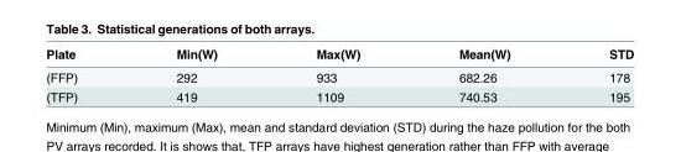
<table><thead><tr><td>Plate</td><td>Min(W)</td><td>Max(W)</td><td>Mean(W)</td><td>STD</td></tr></thead><tbody><tr><td>(FFP)</td><td>292</td><td>933</td><td>682.26</td><td>178</td></tr><tr><td>(TFP)</td><td>419</td><td>1109</td><td>740.53</td><td>195</td></tr></tbody></table>